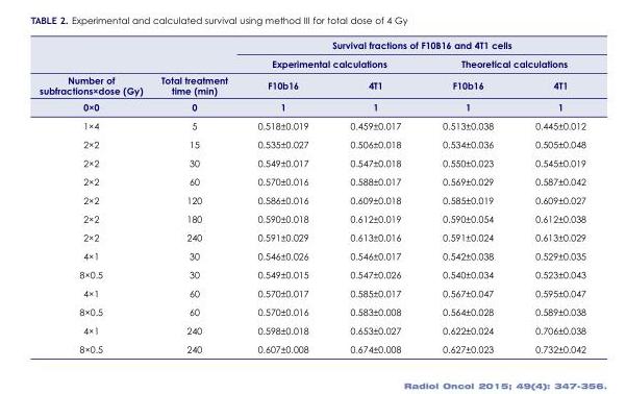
<table><thead><tr><td rowspan="4">Number of subfractions×dose (Gy) 0×0</td><td rowspan="4">Total treatment time (min) 0</td><td colspan="4">Survival fractions of F10B16 and 4T1 cells</td></tr><tr><td colspan="2">Experimental calculations</td><td colspan="2">Theoretical calculations</td></tr><tr><td rowspan="2">F10b16 1</td><td rowspan="2">4T1 1</td><td rowspan="2">F10b16 1</td><td rowspan="2">4T1 1</td></tr><tr></tr></thead><tbody><tr><td>1×4</td><td>5</td><td>0.518±0.019</td><td>0.459±0.017</td><td>0.513±0.038</td><td>0.445±0.012</td></tr><tr><td>2×2</td><td>15</td><td>0.535±0.027</td><td>0.506±0.018</td><td>0.534±0.036</td><td>0.505±0.048</td></tr><tr><td>2×2</td><td>30</td><td>0.549±0.017</td><td>0.547±0.018</td><td>0.550±0.023</td><td>0.545±0.019</td></tr><tr><td>2×2</td><td>60</td><td>0.570±0.016</td><td>0.588±0.017</td><td>0.569±0.029</td><td>0.587±0.042</td></tr><tr><td>2×2</td><td>120</td><td>0.586±0.016</td><td>0.609±0.018</td><td>0.585±0.019</td><td>0.609±0.027</td></tr><tr><td>2×2</td><td>180</td><td>0.590±0.018</td><td>0.612±0.019</td><td>0.590±0.054</td><td>0.612±0.038</td></tr><tr><td>2×2</td><td>240</td><td>0.591±0.029</td><td>0.613±0.016</td><td>0.591±0.024</td><td>0.613±0.029</td></tr><tr><td>4×1</td><td>30</td><td>0.546±0.026</td><td>0.546±0.017</td><td>0.542±0.038</td><td>0.529±0.035</td></tr><tr><td>8×0.5</td><td>30</td><td>0.549±0.015</td><td>0.547±0.026</td><td>0.540±0.034</td><td>0.523±0.043</td></tr><tr><td>4×1</td><td>60</td><td>0.570±0.017</td><td>0.585±0.017</td><td>0.567±0.047</td><td>0.595±0.047</td></tr><tr><td>8×0.5</td><td>60</td><td>0.570±0.016</td><td>0.583±0.008</td><td>0.564±0.028</td><td>0.589±0.038</td></tr><tr><td>4×1</td><td>240</td><td>0.598±0.018</td><td>0.653±0.027</td><td>0.622±0.024</td><td>0.706±0.038</td></tr><tr><td>8×0.5</td><td>240</td><td>0.607±0.008</td><td>0.674±0.008</td><td>0.627±0.023</td><td>0.732±0.042</td></tr></tbody></table>